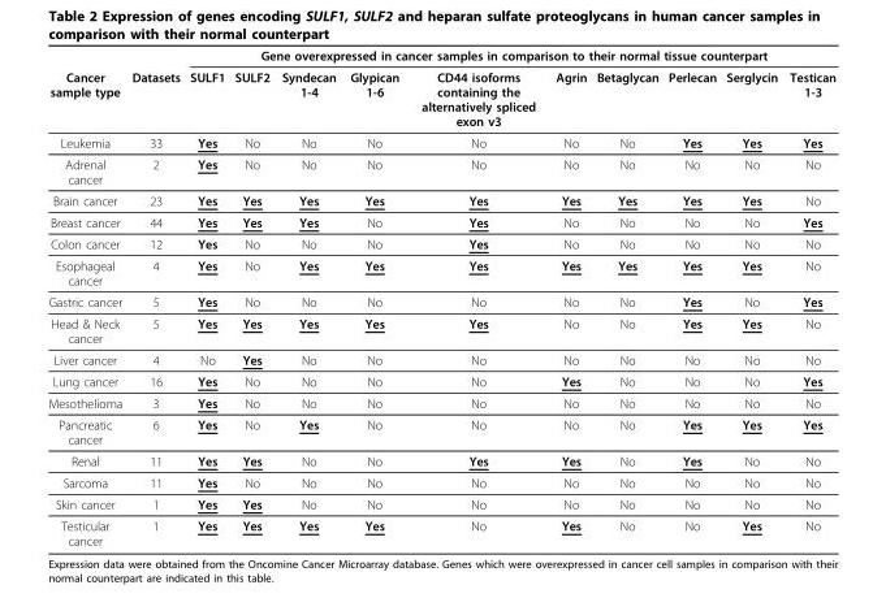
<table><thead><tr><td rowspan="2">Cancer sample type</td><td rowspan="2">Datasets</td><td colspan="10">Gene overexpressed in cancer samples in comparison to their normal tissue counterpart</td></tr><tr><td>SULF1</td><td>SULF2</td><td>Syndecan 1-4</td><td>Glypican 1-6</td><td>CD44 isoforms containing the alternatively spliced exon v3</td><td>Agrin</td><td>Betaglycan</td><td>Perlecan</td><td>Serglycin</td><td>Testican 1-3</td></tr></thead><tbody><tr><td>Leukemia</td><td>33</td><td>Yes</td><td>No</td><td>No</td><td>No</td><td>No</td><td>No</td><td>No</td><td>Yes</td><td>Yes</td><td>Yes</td></tr><tr><td>Adrenal cancer</td><td>2</td><td>Yes</td><td>No</td><td>No</td><td>No</td><td>No</td><td>No</td><td>No</td><td>No</td><td>No</td><td>No</td></tr><tr><td>Brain cancer</td><td>23</td><td>Yes</td><td>Yes</td><td>Yes</td><td>Yes</td><td>Yes</td><td>Yes</td><td>Yes</td><td>Yes</td><td>Yes</td><td>No</td></tr><tr><td>Breast cancer</td><td>44</td><td>Yes</td><td>Yes</td><td>Yes</td><td>No</td><td>Yes</td><td>No</td><td>No</td><td>No</td><td>No</td><td>Yes</td></tr><tr><td>Colon cancer</td><td>12</td><td>Yes</td><td>No</td><td>No</td><td>No</td><td>Yes</td><td>No</td><td>No</td><td>No</td><td>No</td><td>No</td></tr><tr><td>Esophageal cancer</td><td>4</td><td>Yes</td><td>No</td><td>Yes</td><td>Yes</td><td>Yes</td><td>Yes</td><td>Yes</td><td>Yes</td><td>Yes</td><td>No</td></tr><tr><td>Gastric cancer</td><td>5</td><td>Yes</td><td>No</td><td>No</td><td>No</td><td>No</td><td>No</td><td>No</td><td>Yes</td><td>No</td><td>Yes</td></tr><tr><td>Head &amp; Neck cancer</td><td>5</td><td>Yes</td><td>Yes</td><td>Yes</td><td>Yes</td><td>Yes</td><td>No</td><td>No</td><td>Yes</td><td>Yes</td><td>No</td></tr><tr><td>Liver cancer</td><td>4</td><td>No</td><td>Yes</td><td>No</td><td>No</td><td>No</td><td>No</td><td>No</td><td>No</td><td>No</td><td>No</td></tr><tr><td>Lung cancer</td><td>16</td><td>Yes</td><td>No</td><td>No</td><td>No</td><td>No</td><td>Yes</td><td>No</td><td>No</td><td>No</td><td>Yes</td></tr><tr><td>Mesothelioma</td><td>3</td><td>Yes</td><td>No</td><td>No</td><td>No</td><td>No</td><td>No</td><td>No</td><td>No</td><td>No</td><td>No</td></tr><tr><td>Pancreatic cancer</td><td>6</td><td>Yes</td><td>No</td><td>Yes</td><td>No</td><td>No</td><td>No</td><td>No</td><td>Yes</td><td>Yes</td><td>Yes</td></tr><tr><td>Renal</td><td>11</td><td>Yes</td><td>Yes</td><td>No</td><td>No</td><td>Yes</td><td>Yes</td><td>No</td><td>Yes</td><td>No</td><td>No</td></tr><tr><td>Sarcoma</td><td>11</td><td>Yes</td><td>No</td><td>No</td><td>No</td><td>No</td><td>No</td><td>No</td><td>No</td><td>No</td><td>No</td></tr><tr><td>Skin cancer</td><td>1</td><td>Yes</td><td>Yes</td><td>No</td><td>No</td><td>No</td><td>No</td><td>No</td><td>No</td><td>No</td><td>No</td></tr><tr><td>Testicular cancer</td><td>1</td><td>Yes</td><td>Yes</td><td>Yes</td><td>Yes</td><td>No</td><td>Yes</td><td>No</td><td>No</td><td>Yes</td><td>No</td></tr></tbody></table>